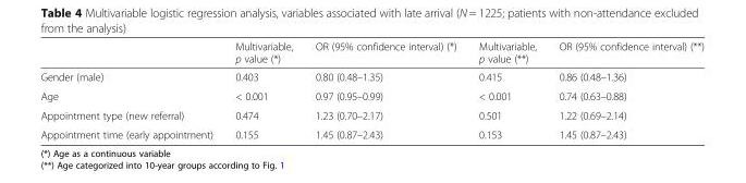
<table><thead><tr><td></td><td>Multivariable, p value (*)</td><td>OR (95% confidence interval) (*)</td><td>Multivariable, p value (**)</td><td>OR (95% confidence interval) (**)</td></tr></thead><tbody><tr><td>Gender (male)</td><td>0.403</td><td>0.80 (0.48–1.35)</td><td>0.415</td><td>0.86 (0.48–1.36)</td></tr><tr><td>Age</td><td>&lt; 0.001</td><td>0.97 (0.95–0.99)</td><td>&lt; 0.001</td><td>0.74 (0.63–0.88)</td></tr><tr><td>Appointment type (new referral)</td><td>0.474</td><td>1.23 (0.70–2.17)</td><td>0.501</td><td>1.22 (0.69–2.14)</td></tr><tr><td>Appointment time (early appointment)</td><td>0.155</td><td>1.45 (0.87–2.43)</td><td>0.153</td><td>1.45 (0.87–2.43)</td></tr></tbody></table>